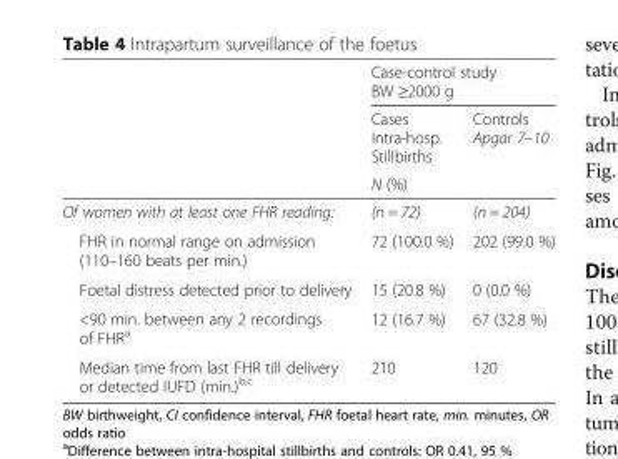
<table><thead><tr><td rowspan="3"></td><td colspan="2">Case-control study BW ≥2000 g</td></tr><tr><td>Cases Intra-hosp. Stillbirths</td><td>Controls Apgar 7–10</td></tr><tr><td colspan="2">N (%)</td></tr></thead><tbody><tr><td>Of women with at least one FHR reading:</td><td>(n = 72)</td><td>(n = 204)</td></tr><tr><td>FHR in normal range on admission (110–160 beats per min.)</td><td>72 (100.0 %)</td><td>202 (99.0 %)</td></tr><tr><td>Foetal distress detected prior to delivery</td><td>15 (20.8 %)</td><td>0 (0.0 %)</td></tr><tr><td>&lt;90 min. between any 2 recordings of FHR<sup>a</sup></td><td>12 (16.7 %)</td><td>67 (32.8 %)</td></tr><tr><td>Median time from last FHR till delivery or detected IUFD (min.)<sup>b,c</sup></td><td>210</td><td>120</td></tr></tbody></table>